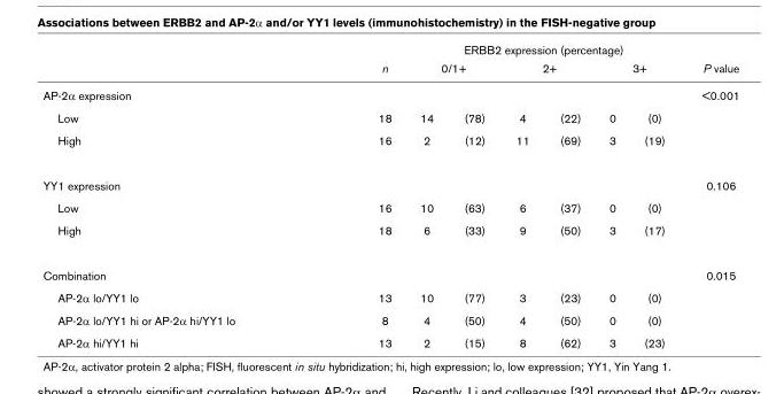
<table><thead><tr><td rowspan="3">AP-2α expression</td><td rowspan="3">n</td><td colspan="6">ERBB2 expression (percentage)</td><td rowspan="3">P value &lt;0.001</td></tr><tr><td colspan="2">0/1+</td><td colspan="2">2+</td><td colspan="2">3+</td></tr><tr><td></td><td></td><td></td><td></td><td></td><td></td></tr></thead><tbody><tr><td>Low</td><td>18</td><td>14</td><td>(78)</td><td>4</td><td>(22)</td><td>0</td><td>(0)</td><td></td></tr><tr><td>High</td><td>16</td><td>2</td><td>(12)</td><td>11</td><td>(69)</td><td>3</td><td>(19)</td><td></td></tr><tr><td>YY1 expression</td><td></td><td></td><td></td><td></td><td></td><td></td><td></td><td>0.106</td></tr><tr><td>Low</td><td>16</td><td>10</td><td>(63)</td><td>6</td><td>(37)</td><td>0</td><td>(0)</td><td></td></tr><tr><td>High</td><td>18</td><td>6</td><td>(33)</td><td>9</td><td>(50)</td><td>3</td><td>(17)</td><td></td></tr><tr><td>Combination</td><td></td><td></td><td></td><td></td><td></td><td></td><td></td><td>0.015</td></tr><tr><td>AP-2α lo/YY1 lo</td><td>13</td><td>10</td><td>(77)</td><td>3</td><td>(23)</td><td>0</td><td>(0)</td><td></td></tr><tr><td>AP-2α lo/YY1 hi or AP-2α hi/YY1 lo</td><td>8</td><td>4</td><td>(50)</td><td>4</td><td>(50)</td><td>0</td><td>(0)</td><td></td></tr><tr><td>AP-2α hi/YY1 hi</td><td>13</td><td>2</td><td>(15)</td><td>8</td><td>(62)</td><td>3</td><td>(23)</td><td></td></tr></tbody></table>